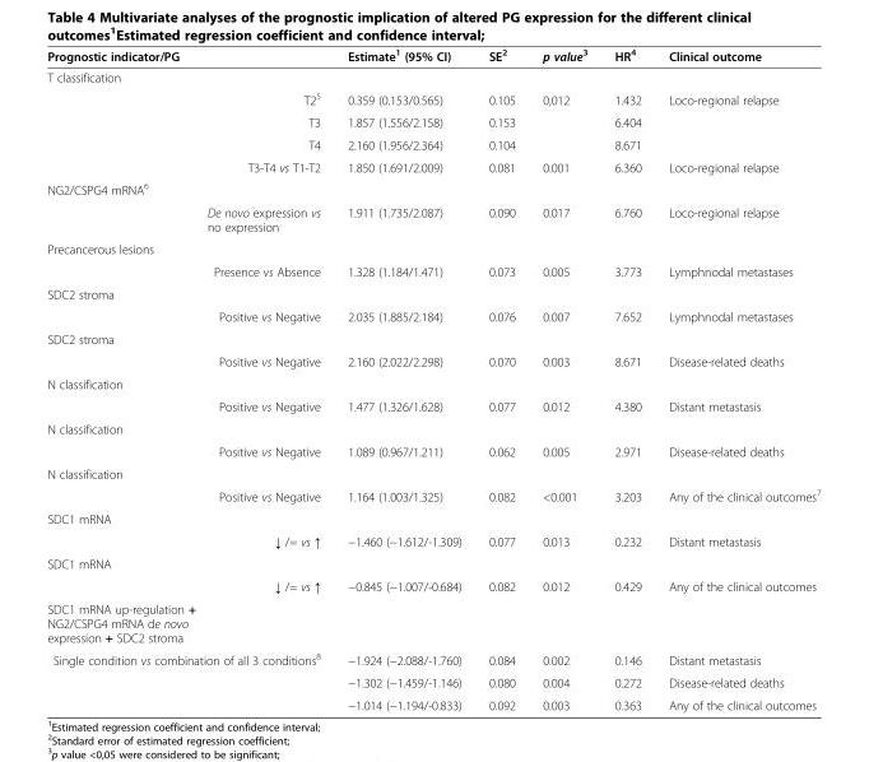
<table><thead><tr><td>Prognostic indicator/PG</td><td>Estimate<sup>1</sup> (95% CI)</td><td>SE<sup>2</sup></td><td>p value<sup>3</sup></td><td>HR<sup>4</sup></td><td>Clinical outcome</td></tr></thead><tbody><tr><td colspan="6">T classification</td></tr><tr><td>T2<sup>5</sup></td><td>0.359 (0.153/0.565)</td><td>0.105</td><td>0,012</td><td>1.432</td><td>Loco-regional relapse</td></tr><tr><td>T3</td><td>1.857 (1.556/2.158)</td><td>0.153</td><td></td><td>6.404</td><td></td></tr><tr><td>T4</td><td>2.160 (1.956/2.364)</td><td>0.104</td><td></td><td>8.671</td><td></td></tr><tr><td>T3-T4 vs T1-T2</td><td>1.850 (1.691/2.009)</td><td>0.081</td><td>0.001</td><td>6.360</td><td>Loco-regional relapse</td></tr><tr><td colspan="6">NG2/CSPG4 mRNA<sup>6</sup></td></tr><tr><td>De novo expression vs no expression</td><td>1.911 (1.735/2.087)</td><td>0.090</td><td>0.017</td><td>6.760</td><td>Loco-regional relapse</td></tr><tr><td colspan="6">Precancerous lesions</td></tr><tr><td>Presence vs Absence</td><td>1.328 (1.184/1.471)</td><td>0.073</td><td>0.005</td><td>3.773</td><td>Lymphnodal metastases</td></tr><tr><td colspan="6">SDC2 stroma</td></tr><tr><td>Positive vs Negative</td><td>2.035 (1.885/2.184)</td><td>0.076</td><td>0.007</td><td>7.652</td><td>Lymphnodal metastases</td></tr><tr><td colspan="6">SDC2 stroma</td></tr><tr><td>Positive vs Negative</td><td>2.160 (2.022/2.298)</td><td>0.070</td><td>0.003</td><td>8.671</td><td>Disease-related deaths</td></tr><tr><td colspan="6">N classification</td></tr><tr><td>Positive vs Negative</td><td>1.477 (1.326/1.628)</td><td>0.077</td><td>0.012</td><td>4.380</td><td>Distant metastasis</td></tr><tr><td colspan="6">N classification</td></tr><tr><td>Positive vs Negative</td><td>1.089 (0.967/1.211)</td><td>0.062</td><td>0.005</td><td>2.971</td><td>Disease-related deaths</td></tr><tr><td colspan="6">N classification</td></tr><tr><td>Positive vs Negative</td><td>1.164 (1.003/1.325)</td><td>0.082</td><td>&lt;0.001</td><td>3.203</td><td>Any of the clinical outcomes<sup>7</sup></td></tr><tr><td colspan="6">SDC1 mRNA</td></tr><tr><td>↓ /= vs ↑</td><td>−1.460 (−1.612/-1.309)</td><td>0.077</td><td>0.013</td><td>0.232</td><td>Distant metastasis</td></tr><tr><td colspan="6">SDC1 mRNA</td></tr><tr><td>↓ /= vs ↑</td><td>−0.845 (−1.007/-0.684)</td><td>0.082</td><td>0.012</td><td>0.429</td><td>Any of the clinical outcomes</td></tr><tr><td colspan="6">SDC1 mRNA up-regulation + NG2/CSPG4 mRNA de novo expression + SDC2 stroma</td></tr><tr><td rowspan="3">Single condition vs combination of all 3 conditions<sup>8</sup></td><td>−1.924 (−2.088/-1.760)</td><td>0.084</td><td>0.002</td><td>0.146</td><td>Distant metastasis</td></tr><tr><td>−1.302 (−1.459/-1.146)</td><td>0.080</td><td>0.004</td><td>0.272</td><td>Disease-related deaths</td></tr><tr><td>−1.014 (−1.194/-0.833)</td><td>0.092</td><td>0.003</td><td>0.363</td><td>Any of the clinical outcomes</td></tr></tbody></table>